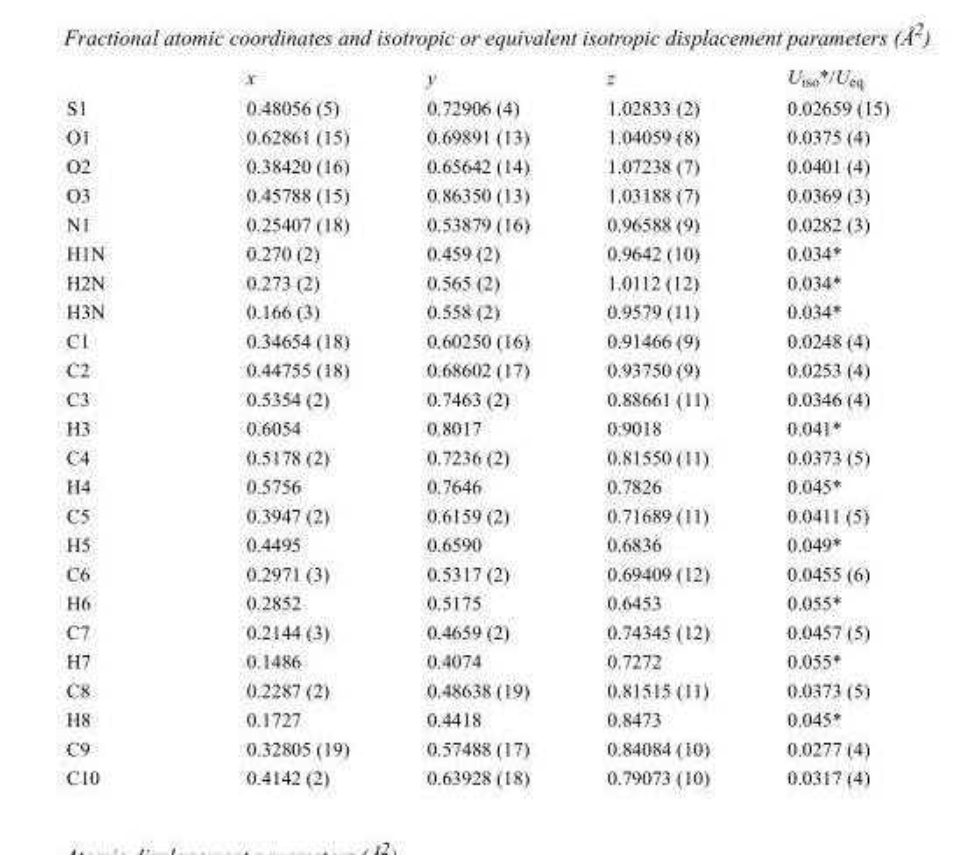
<table><thead><tr><td></td><td>x</td><td>y</td><td>z</td><td>U<sub>iso</sub>*/U<sub>eq</sub></td></tr></thead><tbody><tr><td>S1</td><td>0.48056 (5)</td><td>0.72906 (4)</td><td>1.02833 (2)</td><td>0.02659 (15)</td></tr><tr><td>O1</td><td>0.62861 (15)</td><td>0.69891 (13)</td><td>1.04059 (8)</td><td>0.0375 (4)</td></tr><tr><td>O2</td><td>0.38420 (16)</td><td>0.65642 (14)</td><td>1.07238 (7)</td><td>0.0401 (4)</td></tr><tr><td>O3</td><td>0.45788 (15)</td><td>0.86350 (13)</td><td>1.03188 (7)</td><td>0.0369 (3)</td></tr><tr><td>N1</td><td>0.25407 (18)</td><td>0.53879 (16)</td><td>0.96588 (9)</td><td>0.0282 (3)</td></tr><tr><td>H1N</td><td>0.270 (2)</td><td>0.459 (2)</td><td>0.9642 (10)</td><td>0.034*</td></tr><tr><td>H2N</td><td>0.273 (2)</td><td>0.565 (2)</td><td>1.0112 (12)</td><td>0.034*</td></tr><tr><td>H3N</td><td>0.166 (3)</td><td>0.558 (2)</td><td>0.9579 (11)</td><td>0.034*</td></tr><tr><td>C1</td><td>0.34654 (18)</td><td>0.60250 (16)</td><td>0.91466 (9)</td><td>0.0248 (4)</td></tr><tr><td>C2</td><td>0.44755 (18)</td><td>0.68602 (17)</td><td>0.93750 (9)</td><td>0.0253 (4)</td></tr><tr><td>C3</td><td>0.5354 (2)</td><td>0.7463 (2)</td><td>0.88661 (11)</td><td>0.0346 (4)</td></tr><tr><td>H3</td><td>0.6054</td><td>0.8017</td><td>0.9018</td><td>0.041*</td></tr><tr><td>C4</td><td>0.5178 (2)</td><td>0.7236 (2)</td><td>0.81550 (11)</td><td>0.0373 (5)</td></tr><tr><td>H4</td><td>0.5756</td><td>0.7646</td><td>0.7826</td><td>0.045*</td></tr><tr><td>C5</td><td>0.3947 (2)</td><td>0.6159 (2)</td><td>0.71689 (11)</td><td>0.0411 (5)</td></tr><tr><td>H5</td><td>0.4495</td><td>0.6590</td><td>0.6836</td><td>0.049*</td></tr><tr><td>C6</td><td>0.2971 (3)</td><td>0.5317 (2)</td><td>0.69409 (12)</td><td>0.0455 (6)</td></tr><tr><td>H6</td><td>0.2852</td><td>0.5175</td><td>0.6453</td><td>0.055*</td></tr><tr><td>C7</td><td>0.2144 (3)</td><td>0.4659 (2)</td><td>0.74345 (12)</td><td>0.0457 (5)</td></tr><tr><td>H7</td><td>0.1486</td><td>0.4074</td><td>0.7272</td><td>0.055*</td></tr><tr><td>C8</td><td>0.2287 (2)</td><td>0.48638 (19)</td><td>0.81515 (11)</td><td>0.0373 (5)</td></tr><tr><td>H8</td><td>0.1727</td><td>0.4418</td><td>0.8473</td><td>0.045*</td></tr><tr><td>C9</td><td>0.32805 (19)</td><td>0.57488 (17)</td><td>0.84084 (10)</td><td>0.0277 (4)</td></tr><tr><td>C10</td><td>0.4142 (2)</td><td>0.63928 (18)</td><td>0.79073 (10)</td><td>0.0317 (4)</td></tr></tbody></table>